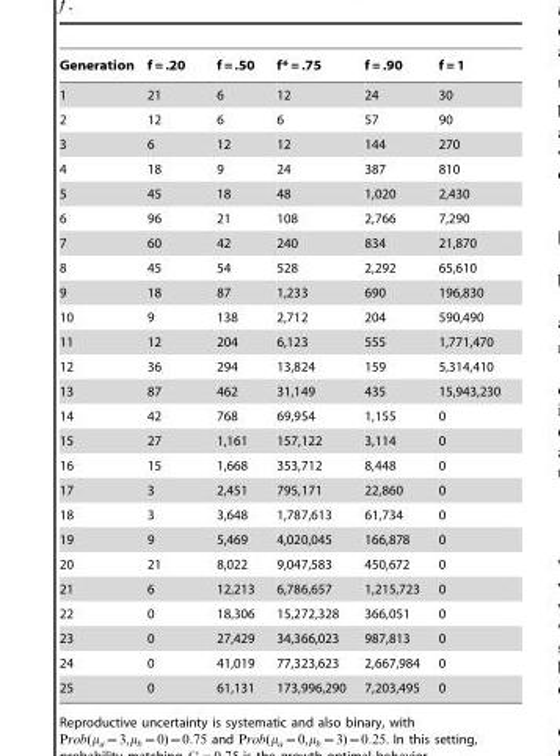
<table><thead><tr><td>Generation</td><td>f = .20</td><td>f = .50</td><td>f* = .75</td><td>f = .90</td><td>f = 1</td></tr></thead><tbody><tr><td>1</td><td>21</td><td>6</td><td>12</td><td>24</td><td>30</td></tr><tr><td>2</td><td>12</td><td>6</td><td>6</td><td>57</td><td>90</td></tr><tr><td>3</td><td>6</td><td>12</td><td>12</td><td>144</td><td>270</td></tr><tr><td>4</td><td>18</td><td>9</td><td>24</td><td>387</td><td>810</td></tr><tr><td>5</td><td>45</td><td>18</td><td>48</td><td>1,020</td><td>2,430</td></tr><tr><td>6</td><td>96</td><td>21</td><td>108</td><td>2,766</td><td>7,290</td></tr><tr><td>7</td><td>60</td><td>42</td><td>240</td><td>834</td><td>21,870</td></tr><tr><td>8</td><td>45</td><td>54</td><td>528</td><td>2,292</td><td>65,610</td></tr><tr><td>9</td><td>18</td><td>87</td><td>1,233</td><td>690</td><td>196,830</td></tr><tr><td>10</td><td>9</td><td>138</td><td>2,712</td><td>204</td><td>590,490</td></tr><tr><td>11</td><td>12</td><td>204</td><td>6,123</td><td>555</td><td>1,771,470</td></tr><tr><td>12</td><td>36</td><td>294</td><td>13,824</td><td>159</td><td>5,314,410</td></tr><tr><td>13</td><td>87</td><td>462</td><td>31,149</td><td>435</td><td>15,943,230</td></tr><tr><td>14</td><td>42</td><td>768</td><td>69,954</td><td>1,155</td><td>0</td></tr><tr><td>15</td><td>27</td><td>1,161</td><td>157,122</td><td>3,114</td><td>0</td></tr><tr><td>16</td><td>15</td><td>1,668</td><td>353,712</td><td>8,448</td><td>0</td></tr><tr><td>17</td><td>3</td><td>2,451</td><td>795,171</td><td>22,860</td><td>0</td></tr><tr><td>18</td><td>3</td><td>3,648</td><td>1,787,613</td><td>61,734</td><td>0</td></tr><tr><td>19</td><td>9</td><td>5,469</td><td>4,020,045</td><td>166,878</td><td>0</td></tr><tr><td>20</td><td>21</td><td>8,022</td><td>9,047,583</td><td>450,672</td><td>0</td></tr><tr><td>21</td><td>6</td><td>12,213</td><td>6,786,657</td><td>1,215,723</td><td>0</td></tr><tr><td>22</td><td>0</td><td>18,306</td><td>15,272,328</td><td>366,051</td><td>0</td></tr><tr><td>23</td><td>0</td><td>27,429</td><td>34,366,023</td><td>987,813</td><td>0</td></tr><tr><td>24</td><td>0</td><td>41,019</td><td>77,323,623</td><td>2,667,984</td><td>0</td></tr><tr><td>25</td><td>0</td><td>61,131</td><td>173,996,290</td><td>7,203,495</td><td>0</td></tr></tbody></table>